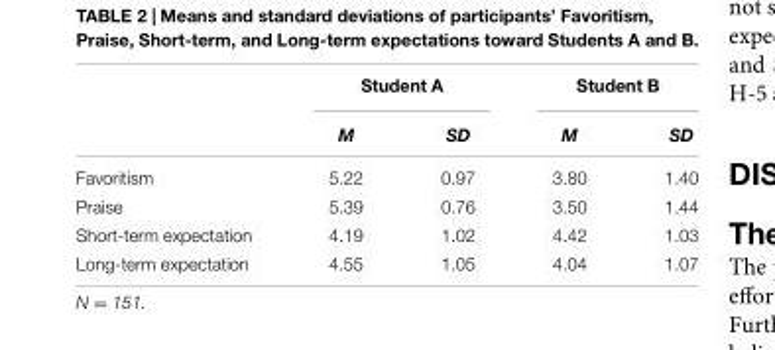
<table><thead><tr><td rowspan="2"></td><td colspan="2">Student A</td><td colspan="2">Student B</td></tr><tr><td>M</td><td>SD</td><td>M</td><td>SD</td></tr></thead><tbody><tr><td>Favoritism</td><td>5.22</td><td>0.97</td><td>3.80</td><td>1.40</td></tr><tr><td>Praise</td><td>5.39</td><td>0.76</td><td>3.50</td><td>1.44</td></tr><tr><td>Short-term expectation</td><td>4.19</td><td>1.02</td><td>4.42</td><td>1.03</td></tr><tr><td>Long-term expectation</td><td>4.55</td><td>1.05</td><td>4.04</td><td>1.07</td></tr></tbody></table>